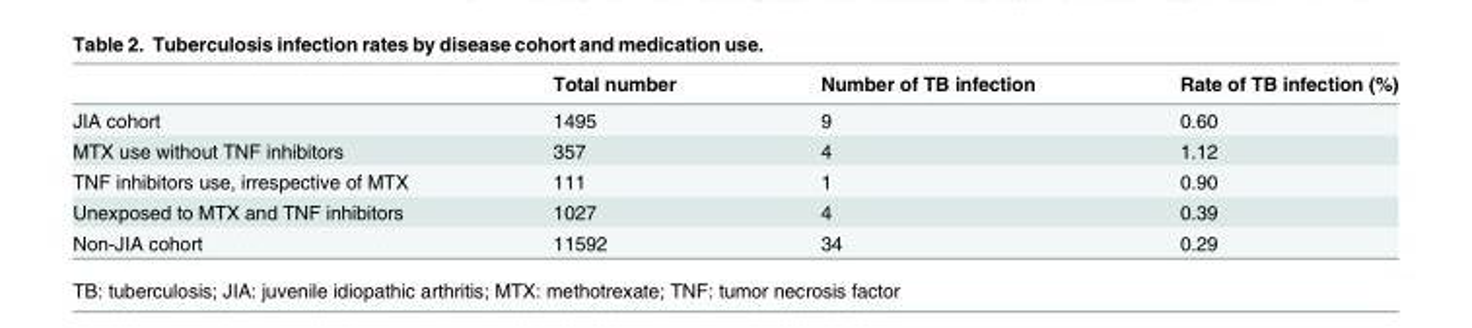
<table><thead><tr><td></td><td>Total number</td><td>Number of TB infection</td><td>Rate of TB infection (%)</td></tr></thead><tbody><tr><td>JIA cohort</td><td>1495</td><td>9</td><td>0.60</td></tr><tr><td>MTX use without TNF inhibitors</td><td>357</td><td>4</td><td>1.12</td></tr><tr><td>TNF inhibitors use, irrespective of MTX</td><td>111</td><td>1</td><td>0.90</td></tr><tr><td>Unexposed to MTX and TNF inhibitors</td><td>1027</td><td>4</td><td>0.39</td></tr><tr><td>Non-JIA cohort</td><td>11592</td><td>34</td><td>0.29</td></tr></tbody></table>